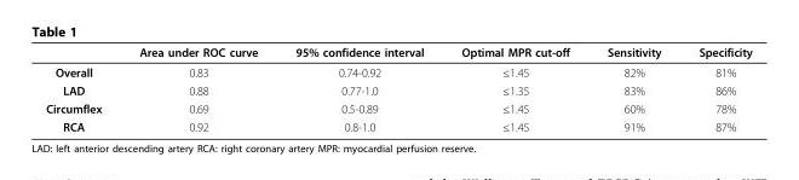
<table><thead><tr><td></td><td>Area under ROC curve</td><td>95% confidence interval</td><td>Optimal MPR cut-off</td><td>Sensitivity</td><td>Specificity</td></tr></thead><tbody><tr><td>Overall</td><td>0.83</td><td>0.74-0.92</td><td>≤1.45</td><td>82%</td><td>81%</td></tr><tr><td>LAD</td><td>0.88</td><td>0.77-1.0</td><td>≤1.35</td><td>83%</td><td>86%</td></tr><tr><td>Circumflex</td><td>0.69</td><td>0.5-0.89</td><td>≤1.45</td><td>60%</td><td>78%</td></tr><tr><td>RCA</td><td>0.92</td><td>0.8-1.0</td><td>≤1.45</td><td>91%</td><td>87%</td></tr></tbody></table>